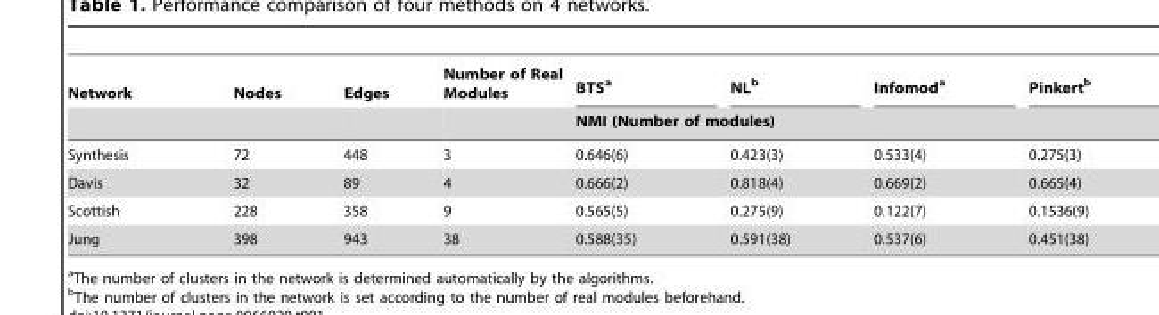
<table><thead><tr><td rowspan="2">Network</td><td rowspan="2">Nodes</td><td rowspan="2">Edges</td><td rowspan="2">Number of Real Modules</td><td>BTS<sup>a</sup></td><td>NL<sup>b</sup></td><td>Infomod<sup>a</sup></td><td>Pinkert<sup>b</sup></td></tr><tr><td colspan="4">NMI (Number of modules)</td></tr></thead><tbody><tr><td>Synthesis</td><td>72</td><td>448</td><td>3</td><td>0.646(6)</td><td>0.423(3)</td><td>0.533(4)</td><td>0.275(3)</td></tr><tr><td>Davis</td><td>32</td><td>89</td><td>4</td><td>0.666(2)</td><td>0.818(4)</td><td>0.669(2)</td><td>0.665(4)</td></tr><tr><td>Scottish</td><td>228</td><td>358</td><td>9</td><td>0.565(5)</td><td>0.275(9)</td><td>0.122(7)</td><td>0.1536(9)</td></tr><tr><td>Jung</td><td>398</td><td>943</td><td>38</td><td>0.588(35)</td><td>0.591(38)</td><td>0.537(6)</td><td>0.451(38)</td></tr></tbody></table>